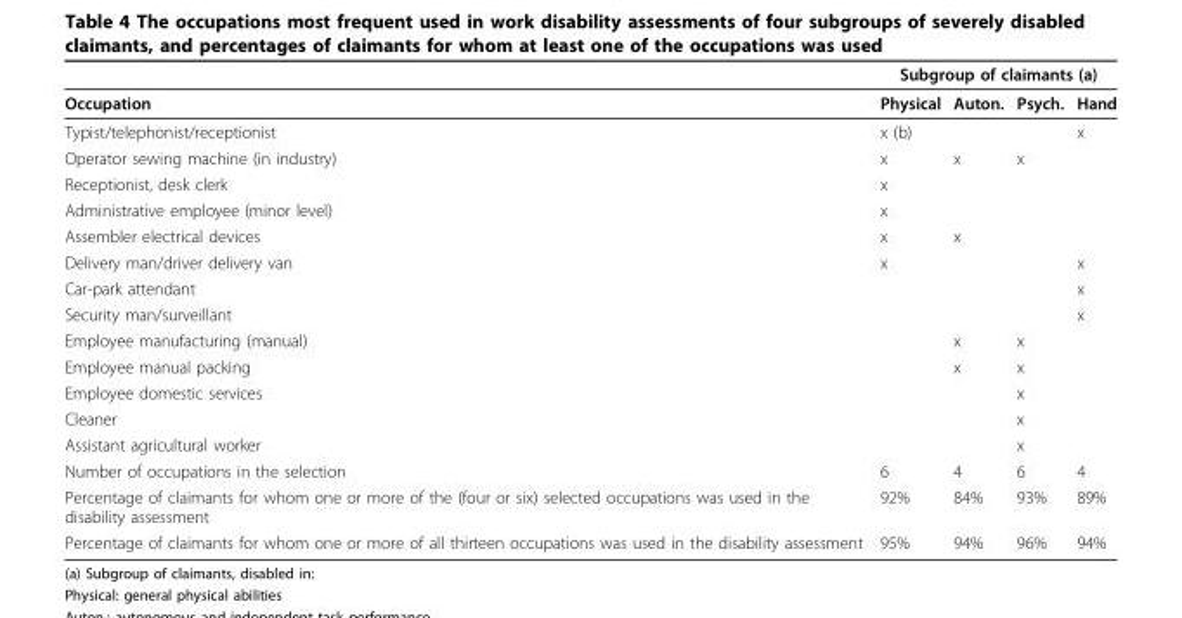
<table><thead><tr><td rowspan="2">Occupation</td><td colspan="4">Subgroup of claimants (a)</td></tr><tr><td>Physical</td><td>Auton.</td><td>Psych.</td><td>Hand</td></tr></thead><tbody><tr><td>Typist/telephonist/receptionist</td><td>x (b)</td><td></td><td></td><td>x</td></tr><tr><td>Operator sewing machine (in industry)</td><td>x</td><td>x</td><td>x</td><td></td></tr><tr><td>Receptionist, desk clerk</td><td>x</td><td></td><td></td><td></td></tr><tr><td>Administrative employee (minor level)</td><td>x</td><td></td><td></td><td></td></tr><tr><td>Assembler electrical devices</td><td>x</td><td>x</td><td></td><td></td></tr><tr><td>Delivery man/driver delivery van</td><td>x</td><td></td><td></td><td>x</td></tr><tr><td>Car-park attendant</td><td></td><td></td><td></td><td>x</td></tr><tr><td>Security man/surveillant</td><td></td><td></td><td></td><td>x</td></tr><tr><td>Employee manufacturing (manual)</td><td></td><td>x</td><td>x</td><td></td></tr><tr><td>Employee manual packing</td><td></td><td>x</td><td>x</td><td></td></tr><tr><td>Employee domestic services</td><td></td><td></td><td>x</td><td></td></tr><tr><td>Cleaner</td><td></td><td></td><td>x</td><td></td></tr><tr><td>Assistant agricultural worker</td><td></td><td></td><td>x</td><td></td></tr><tr><td>Number of occupations in the selection</td><td>6</td><td>4</td><td>6</td><td>4</td></tr><tr><td>Percentage of claimants for whom one or more of the (four or six) selected occupations was used in the disability assessment</td><td>92%</td><td>84%</td><td>93%</td><td>89%</td></tr><tr><td>Percentage of claimants for whom one or more of all thirteen occupations was used in the disability assessment</td><td>95%</td><td>94%</td><td>96%</td><td>94%</td></tr></tbody></table>